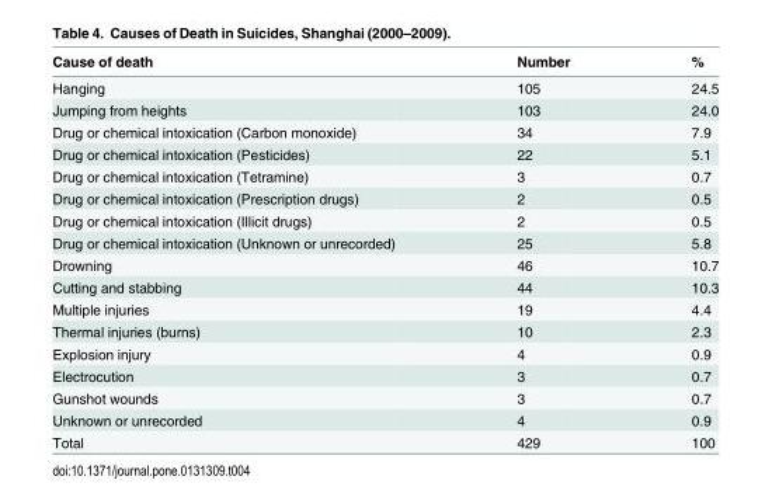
<table><thead><tr><td>Cause of death</td><td>Number</td><td>%</td></tr></thead><tbody><tr><td>Hanging</td><td>105</td><td>24.5</td></tr><tr><td>Jumping from heights</td><td>103</td><td>24.0</td></tr><tr><td>Drug or chemical intoxication (Carbon monoxide)</td><td>34</td><td>7.9</td></tr><tr><td>Drug or chemical intoxication (Pesticides)</td><td>22</td><td>5.1</td></tr><tr><td>Drug or chemical intoxication (Tetramine)</td><td>3</td><td>0.7</td></tr><tr><td>Drug or chemical intoxication (Prescription drugs)</td><td>2</td><td>0.5</td></tr><tr><td>Drug or chemical intoxication (Illicit drugs)</td><td>2</td><td>0.5</td></tr><tr><td>Drug or chemical intoxication (Unknown or unrecorded)</td><td>25</td><td>5.8</td></tr><tr><td>Drowning</td><td>46</td><td>10.7</td></tr><tr><td>Cutting and stabbing</td><td>44</td><td>10.3</td></tr><tr><td>Multiple injuries</td><td>19</td><td>4.4</td></tr><tr><td>Thermal injuries (burns)</td><td>10</td><td>2.3</td></tr><tr><td>Explosion injury</td><td>4</td><td>0.9</td></tr><tr><td>Electrocution</td><td>3</td><td>0.7</td></tr><tr><td>Gunshot wounds</td><td>3</td><td>0.7</td></tr><tr><td>Unknown or unrecorded</td><td>4</td><td>0.9</td></tr><tr><td>Total</td><td>429</td><td>100</td></tr></tbody></table>